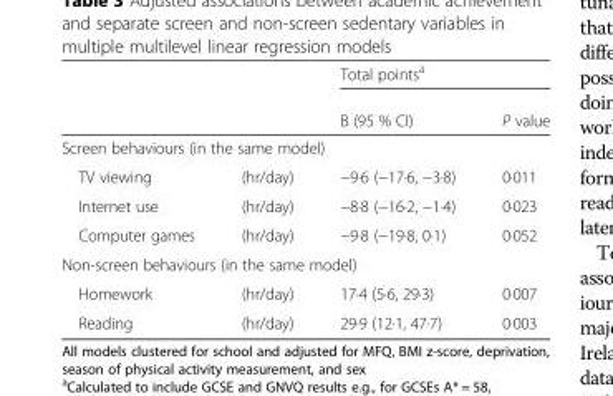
<table><thead><tr><td rowspan="2"></td><td rowspan="2"></td><td colspan="2">Total points<sup>a</sup></td></tr><tr><td>Β (95 % CI)</td><td>P value</td></tr></thead><tbody><tr><td colspan="4">Screen behaviours (in the same model)</td></tr><tr><td>TV viewing</td><td>(hr/day)</td><td>−9·6 (−17·6, −3·8)</td><td>0·011</td></tr><tr><td>Internet use</td><td>(hr/day)</td><td>−8·8 (−16·2, −1·4)</td><td>0·023</td></tr><tr><td>Computer games</td><td>(hr/day)</td><td>−9·8 (−19·8, 0·1)</td><td>0·052</td></tr><tr><td colspan="4">Non-screen behaviours (in the same model)</td></tr><tr><td>Homework</td><td>(hr/day)</td><td>17·4 (5·6, 29·3)</td><td>0·007</td></tr><tr><td>Reading</td><td>(hr/day)</td><td>29·9 (12·1, 47·7)</td><td>0·003</td></tr></tbody></table>